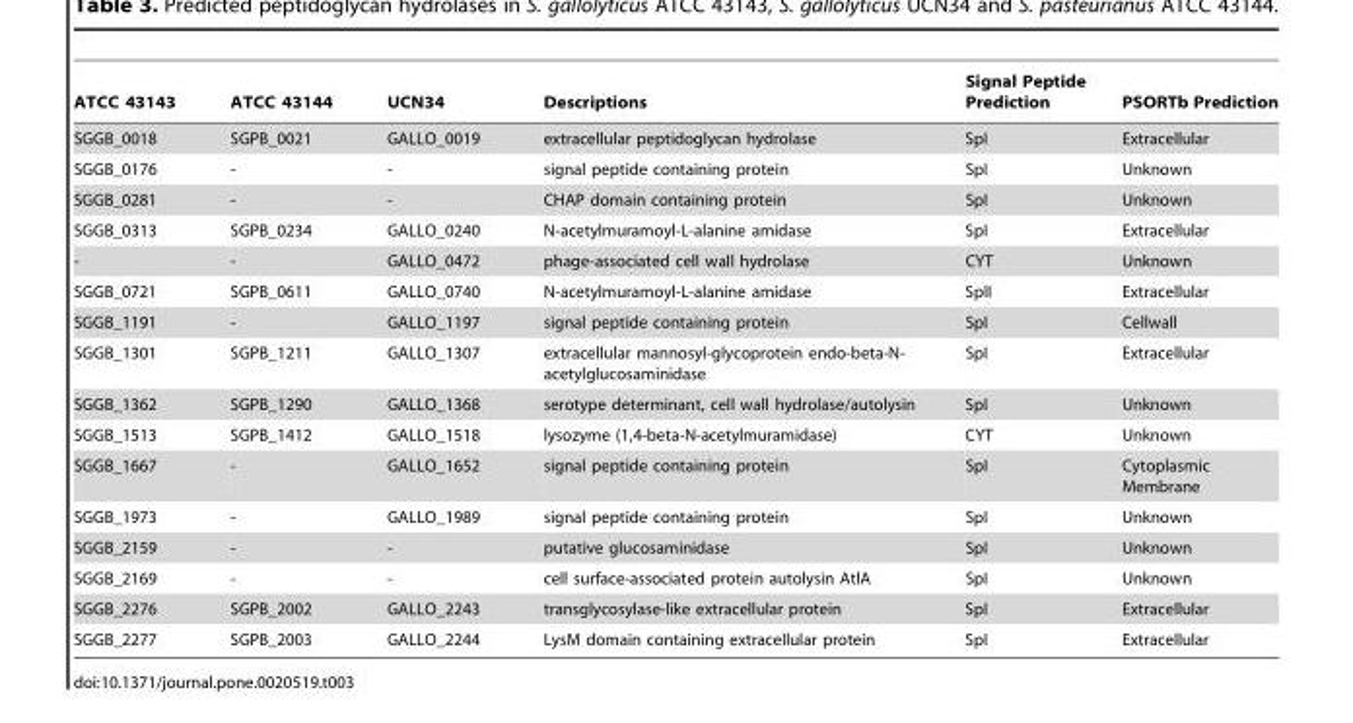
<table><thead><tr><td>ATCC 43143</td><td>ATCC 43144</td><td>UCN34</td><td>Descriptions</td><td>Signal Peptide Prediction</td><td>PSORTb Prediction</td></tr></thead><tbody><tr><td>SGGB_0018</td><td>SGPB_0021</td><td>GALLO_0019</td><td>extracellular peptidoglycan hydrolase</td><td>SpI</td><td>Extracellular</td></tr><tr><td>SGGB_0176</td><td>-</td><td>-</td><td>signal peptide containing protein</td><td>SpI</td><td>Unknown</td></tr><tr><td>SGGB_0281</td><td>-</td><td>-</td><td>CHAP domain containing protein</td><td>SpI</td><td>Unknown</td></tr><tr><td>SGGB_0313</td><td>SGPB_0234</td><td>GALLO_0240</td><td>N-acetylmuramoyl-L-alanine amidase</td><td>SpI</td><td>Extracellular</td></tr><tr><td>-</td><td>-</td><td>GALLO_0472</td><td>phage-associated cell wall hydrolase</td><td>CYT</td><td>Unknown</td></tr><tr><td>SGGB_0721</td><td>SGPB_0611</td><td>GALLO_0740</td><td>N-acetylmuramoyl-L-alanine amidase</td><td>SpII</td><td>Extracellular</td></tr><tr><td>SGGB_1191</td><td>-</td><td>GALLO_1197</td><td>signal peptide containing protein</td><td>SpI</td><td>Cellwall</td></tr><tr><td>SGGB_1301</td><td>SGPB_1211</td><td>GALLO_1307</td><td>extracellular mannosyl-glycoprotein endo-beta-N- acetylglucosaminidase</td><td>SpI</td><td>Extracellular</td></tr><tr><td>SGGB_1362</td><td>SGPB_1290</td><td>GALLO_1368</td><td>serotype determinant, cell wall hydrolase/autolysin</td><td>SpI</td><td>Unknown</td></tr><tr><td>SGGB_1513</td><td>SGPB_1412</td><td>GALLO_1518</td><td>lysozyme (1,4-beta-N-acetylmuramidase)</td><td>CYT</td><td>Unknown</td></tr><tr><td>SGGB_1667</td><td>-</td><td>GALLO_1652</td><td>signal peptide containing protein</td><td>SpI</td><td>Cytoplasmic Membrane</td></tr><tr><td>SGGB_1973</td><td>-</td><td>GALLO_1989</td><td>signal peptide containing protein</td><td>SpI</td><td>Unknown</td></tr><tr><td>SGGB_2159</td><td>-</td><td>-</td><td>putative glucosaminidase</td><td>SpI</td><td>Unknown</td></tr><tr><td>SGGB_2169</td><td>-</td><td>-</td><td>cell surface-associated protein autolysin AtlA</td><td>SpI</td><td>Unknown</td></tr><tr><td>SGGB_2276</td><td>SGPB_2002</td><td>GALLO_2243</td><td>transglycosylase-like extracellular protein</td><td>SpI</td><td>Extracellular</td></tr><tr><td>SGGB_2277</td><td>SGPB_2003</td><td>GALLO_2244</td><td>LysM domain containing extracellular protein</td><td>SpI</td><td>Extracellular</td></tr></tbody></table>